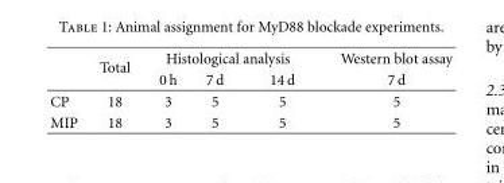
<table><thead><tr><td rowspan="2"></td><td rowspan="2">Total</td><td colspan="3">Histological analysis</td><td rowspan="2">Western blot assay 7 d</td></tr><tr><td>0 h</td><td>7 d</td><td>14 d</td></tr></thead><tbody><tr><td>CP</td><td>18</td><td>3</td><td>5</td><td>5</td><td>5</td></tr><tr><td>MIP</td><td>18</td><td>3</td><td>5</td><td>5</td><td>5</td></tr></tbody></table>